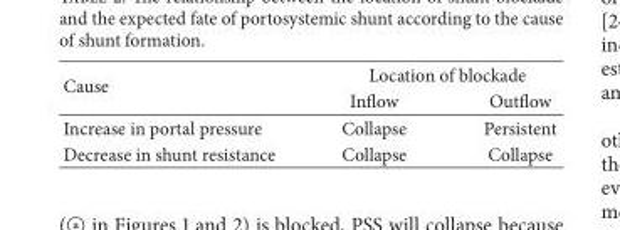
<table><thead><tr><td rowspan="2">Cause</td><td colspan="2">Location of blockade</td></tr><tr><td>Inflow</td><td>Outflow</td></tr></thead><tbody><tr><td>Increase in portal pressure</td><td>Collapse</td><td>Persistent</td></tr><tr><td>Decrease in shunt resistance</td><td>Collapse</td><td>Collapse</td></tr></tbody></table>